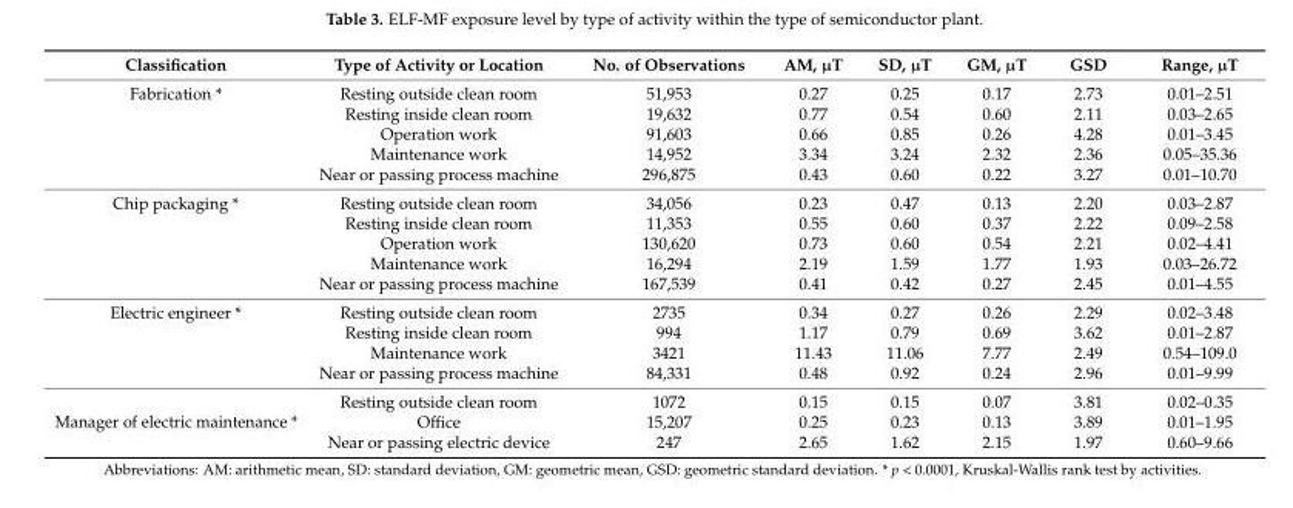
<table><thead><tr><td>Classification</td><td>Type of Activity or Location</td><td>No. of Observations</td><td>AM, µT</td><td>SD, µT</td><td>GM, µT</td><td>GSD</td><td>Range, µT</td></tr></thead><tbody><tr><td rowspan="5">Fabrication *</td><td>Resting outside clean room</td><td>51,953</td><td>0.27</td><td>0.25</td><td>0.17</td><td>2.73</td><td>0.01–2.51</td></tr><tr><td>Resting inside clean room</td><td>19,632</td><td>0.77</td><td>0.54</td><td>0.60</td><td>2.11</td><td>0.03–2.65</td></tr><tr><td>Operation work</td><td>91,603</td><td>0.66</td><td>0.85</td><td>0.26</td><td>4.28</td><td>0.01–3.45</td></tr><tr><td>Maintenance work</td><td>14,952</td><td>3.34</td><td>3.24</td><td>2.32</td><td>2.36</td><td>0.05–35.36</td></tr><tr><td>Near or passing process machine</td><td>296,875</td><td>0.43</td><td>0.60</td><td>0.22</td><td>3.27</td><td>0.01–10.70</td></tr><tr><td rowspan="5">Chip packaging *</td><td>Resting outside clean room</td><td>34,056</td><td>0.23</td><td>0.47</td><td>0.13</td><td>2.20</td><td>0.03–2.87</td></tr><tr><td>Resting inside clean room</td><td>11,353</td><td>0.55</td><td>0.60</td><td>0.37</td><td>2.22</td><td>0.09–2.58</td></tr><tr><td>Operation work</td><td>130,620</td><td>0.73</td><td>0.60</td><td>0.54</td><td>2.21</td><td>0.02–4.41</td></tr><tr><td>Maintenance work</td><td>16,294</td><td>2.19</td><td>1.59</td><td>1.77</td><td>1.93</td><td>0.03–26.72</td></tr><tr><td>Near or passing process machine</td><td>167,539</td><td>0.41</td><td>0.42</td><td>0.27</td><td>2.45</td><td>0.01–4.55</td></tr><tr><td rowspan="4">Electric engineer *</td><td>Resting outside clean room</td><td>2735</td><td>0.34</td><td>0.27</td><td>0.26</td><td>2.29</td><td>0.02–3.48</td></tr><tr><td>Resting inside clean room</td><td>994</td><td>1.17</td><td>0.79</td><td>0.69</td><td>3.62</td><td>0.01–2.87</td></tr><tr><td>Maintenance work</td><td>3421</td><td>11.43</td><td>11.06</td><td>7.77</td><td>2.49</td><td>0.54–109.0</td></tr><tr><td>Near or passing process machine</td><td>84,331</td><td>0.48</td><td>0.92</td><td>0.24</td><td>2.96</td><td>0.01–9.99</td></tr><tr><td rowspan="3">Manager of electric maintenance *</td><td>Resting outside clean room</td><td>1072</td><td>0.15</td><td>0.15</td><td>0.07</td><td>3.81</td><td>0.02–0.35</td></tr><tr><td>Office</td><td>15,207</td><td>0.25</td><td>0.23</td><td>0.13</td><td>3.89</td><td>0.01–1.95</td></tr><tr><td>Near or passing electric device</td><td>247</td><td>2.65</td><td>1.62</td><td>2.15</td><td>1.97</td><td>0.60–9.66</td></tr></tbody></table>